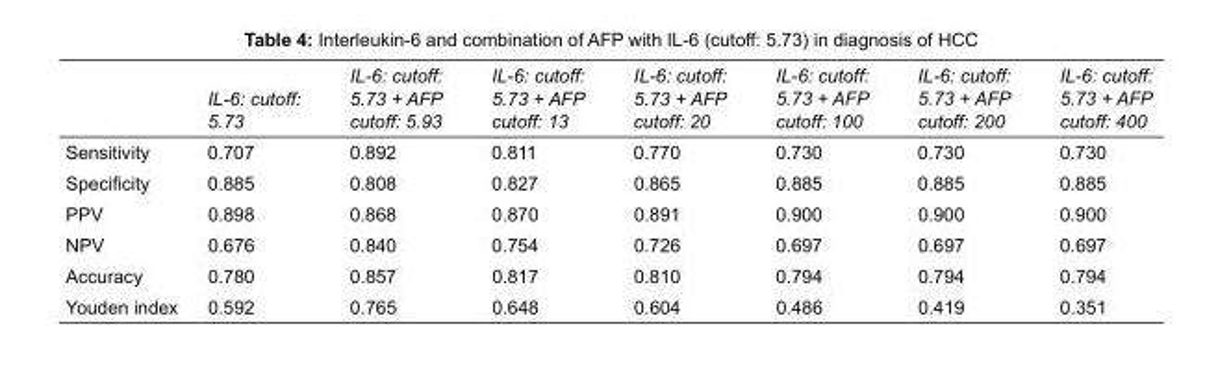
<table><thead><tr><td></td><td>IL-6: cutoff: 5.73</td><td>IL-6: cutoff: 5.73 + AFP cutoff: 5.93</td><td>IL-6: cutoff: 5.73 + AFP cutoff: 13</td><td>IL-6: cutoff: 5.73 + AFP cutoff: 20</td><td>IL-6: cutoff: 5.73 + AFP cutoff: 100</td><td>IL-6: cutoff: 5.73 + AFP cutoff: 200</td><td>IL-6: cutoff: 5.73 + AFP cutoff: 400</td></tr></thead><tbody><tr><td>Sensitivity</td><td>0.707</td><td>0.892</td><td>0.811</td><td>0.770</td><td>0.730</td><td>0.730</td><td>0.730</td></tr><tr><td>Specificity</td><td>0.885</td><td>0.808</td><td>0.827</td><td>0.865</td><td>0.885</td><td>0.885</td><td>0.885</td></tr><tr><td>PPV</td><td>0.898</td><td>0.868</td><td>0.870</td><td>0.891</td><td>0.900</td><td>0.900</td><td>0.900</td></tr><tr><td>NPV</td><td>0.676</td><td>0.840</td><td>0.754</td><td>0.726</td><td>0.697</td><td>0.697</td><td>0.697</td></tr><tr><td>Accuracy</td><td>0.780</td><td>0.857</td><td>0.817</td><td>0.810</td><td>0.794</td><td>0.794</td><td>0.794</td></tr><tr><td>Youden index</td><td>0.592</td><td>0.765</td><td>0.648</td><td>0.604</td><td>0.486</td><td>0.419</td><td>0.351</td></tr></tbody></table>